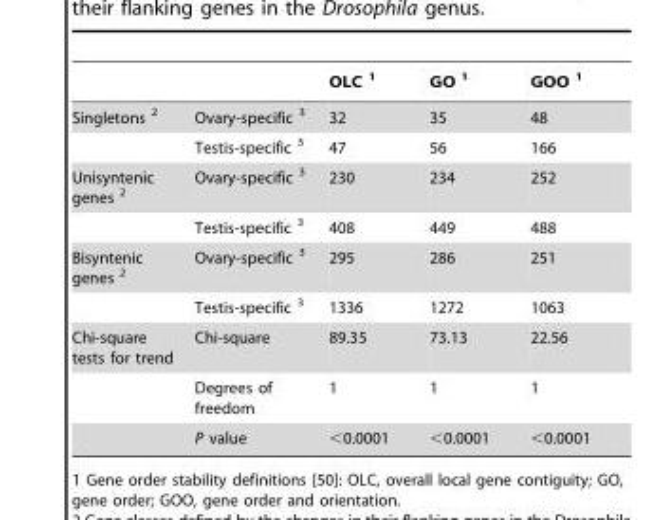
<table><thead><tr><td></td><td></td><td>OLC <sup>1</sup></td><td>GO <sup>1</sup></td><td>GOO <sup>1</sup></td></tr></thead><tbody><tr><td rowspan="2">Singletons <sup>2</sup></td><td>Ovary-specific <sup>3</sup></td><td>32</td><td>35</td><td>48</td></tr><tr><td>Testis-specific <sup>3</sup></td><td>47</td><td>56</td><td>166</td></tr><tr><td rowspan="2">Unisyntenic genes <sup>2</sup></td><td>Ovary-specific <sup>3</sup></td><td>230</td><td>234</td><td>252</td></tr><tr><td>Testis-specific <sup>3</sup></td><td>408</td><td>449</td><td>488</td></tr><tr><td rowspan="2">Bisyntenic genes <sup>2</sup></td><td>Ovary-specific <sup>3</sup></td><td>295</td><td>286</td><td>251</td></tr><tr><td>Testis-specific <sup>3</sup></td><td>1336</td><td>1272</td><td>1063</td></tr><tr><td rowspan="3">Chi-square tests for trend</td><td>Chi-square</td><td>89.35</td><td>73.13</td><td>22.56</td></tr><tr><td>Degrees of freedom</td><td>1</td><td>1</td><td>1</td></tr><tr><td>P value</td><td>&lt;0.0001</td><td>&lt;0.0001</td><td>&lt;0.0001</td></tr></tbody></table>